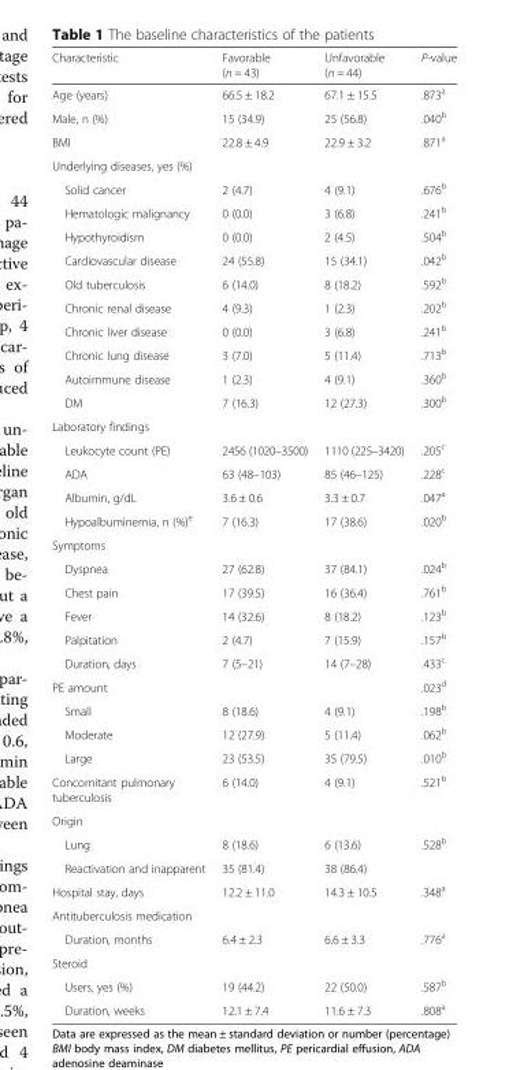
<table><thead><tr><td>Characteristic</td><td>Favorable (n = 43)</td><td>Unfavorable (n = 44)</td><td>P-value</td></tr></thead><tbody><tr><td>Age (years)</td><td>66.5 ± 18.2</td><td>67.1 ± 15.5</td><td>.873<sup>a</sup></td></tr><tr><td>Male, n (%)</td><td>15 (34.9)</td><td>25 (56.8)</td><td>.040<sup>b</sup></td></tr><tr><td>BMI</td><td>22.8 ± 4.9</td><td>22.9 ± 3.2</td><td>.871<sup>a</sup></td></tr><tr><td colspan="4">Underlying diseases, yes (%)</td></tr><tr><td>Solid cancer</td><td>2 (4.7)</td><td>4 (9.1)</td><td>.676<sup>b</sup></td></tr><tr><td>Hematologic malignancy</td><td>0 (0.0)</td><td>3 (6.8)</td><td>.241<sup>b</sup></td></tr><tr><td>Hypothyroidism</td><td>0 (0.0)</td><td>2 (4.5)</td><td>.504<sup>b</sup></td></tr><tr><td>Cardiovascular disease</td><td>24 (55.8)</td><td>15 (34.1)</td><td>.042<sup>b</sup></td></tr><tr><td>Old tuberculosis</td><td>6 (14.0)</td><td>8 (18.2)</td><td>.592<sup>b</sup></td></tr><tr><td>Chronic renal disease</td><td>4 (9.3)</td><td>1 (2.3)</td><td>.202<sup>b</sup></td></tr><tr><td>Chronic liver disease</td><td>0 (0.0)</td><td>3 (6.8)</td><td>.241<sup>b</sup></td></tr><tr><td>Chronic lung disease</td><td>3 (7.0)</td><td>5 (11.4)</td><td>.713<sup>b</sup></td></tr><tr><td>Autoimmune disease</td><td>1 (2.3)</td><td>4 (9.1)</td><td>.360<sup>b</sup></td></tr><tr><td>DM</td><td>7 (16.3)</td><td>12 (27.3)</td><td>.300<sup>b</sup></td></tr><tr><td colspan="4">Laboratory findings</td></tr><tr><td>Leukocyte count (PE)</td><td>2456 (1020–3500)</td><td>1110 (225–3420)</td><td>.205<sup>c</sup></td></tr><tr><td>ADA</td><td>63 (48–103)</td><td>85 (46–125)</td><td>.228<sup>c</sup></td></tr><tr><td>Albumin, g/dL</td><td>3.6 ± 0.6</td><td>3.3 ± 0.7</td><td>.047<sup>a</sup></td></tr><tr><td>Hypoalbuminemia, n (%)<sup>e</sup></td><td>7 (16.3)</td><td>17 (38.6)</td><td>.020<sup>b</sup></td></tr><tr><td colspan="4">Symptoms</td></tr><tr><td>Dyspnea</td><td>27 (62.8)</td><td>37 (84.1)</td><td>.024<sup>b</sup></td></tr><tr><td>Chest pain</td><td>17 (39.5)</td><td>16 (36.4)</td><td>.761<sup>b</sup></td></tr><tr><td>Fever</td><td>14 (32.6)</td><td>8 (18.2)</td><td>.123<sup>b</sup></td></tr><tr><td>Palpitation</td><td>2 (4.7)</td><td>7 (15.9)</td><td>.157<sup>b</sup></td></tr><tr><td>Duration, days</td><td>7 (5–21)</td><td>14 (7–28)</td><td>.433<sup>c</sup></td></tr><tr><td>PE amount</td><td></td><td></td><td>.023<sup>d</sup></td></tr><tr><td>Small</td><td>8 (18.6)</td><td>4 (9.1)</td><td>.198<sup>b</sup></td></tr><tr><td>Moderate</td><td>12 (27.9)</td><td>5 (11.4)</td><td>.062<sup>b</sup></td></tr><tr><td>Large</td><td>23 (53.5)</td><td>35 (79.5)</td><td>.010<sup>b</sup></td></tr><tr><td>Concomitant pulmonary tuberculosis</td><td>6 (14.0)</td><td>4 (9.1)</td><td>.521<sup>b</sup></td></tr><tr><td colspan="4">Origin</td></tr><tr><td>Lung</td><td>8 (18.6)</td><td>6 (13.6)</td><td rowspan="2">.528<sup>b</sup></td></tr><tr><td>Reactivation and inapparent</td><td>35 (81.4)</td><td>38 (86.4)</td></tr><tr><td>Hospital stay, days</td><td>12.2 ± 11.0</td><td>14.3 ± 10.5</td><td>.348<sup>a</sup></td></tr><tr><td colspan="4">Antituberculosis medication</td></tr><tr><td>Duration, months</td><td>6.4 ± 2.3</td><td>6.6 ± 3.3</td><td>.776<sup>a</sup></td></tr><tr><td colspan="4">Steroid</td></tr><tr><td>Users, yes (%)</td><td>19 (44.2)</td><td>22 (50.0)</td><td>.587<sup>b</sup></td></tr><tr><td>Duration, weeks</td><td>12.1 ± 7.4</td><td>11.6 ± 7.3</td><td>.808<sup>a</sup></td></tr></tbody></table>